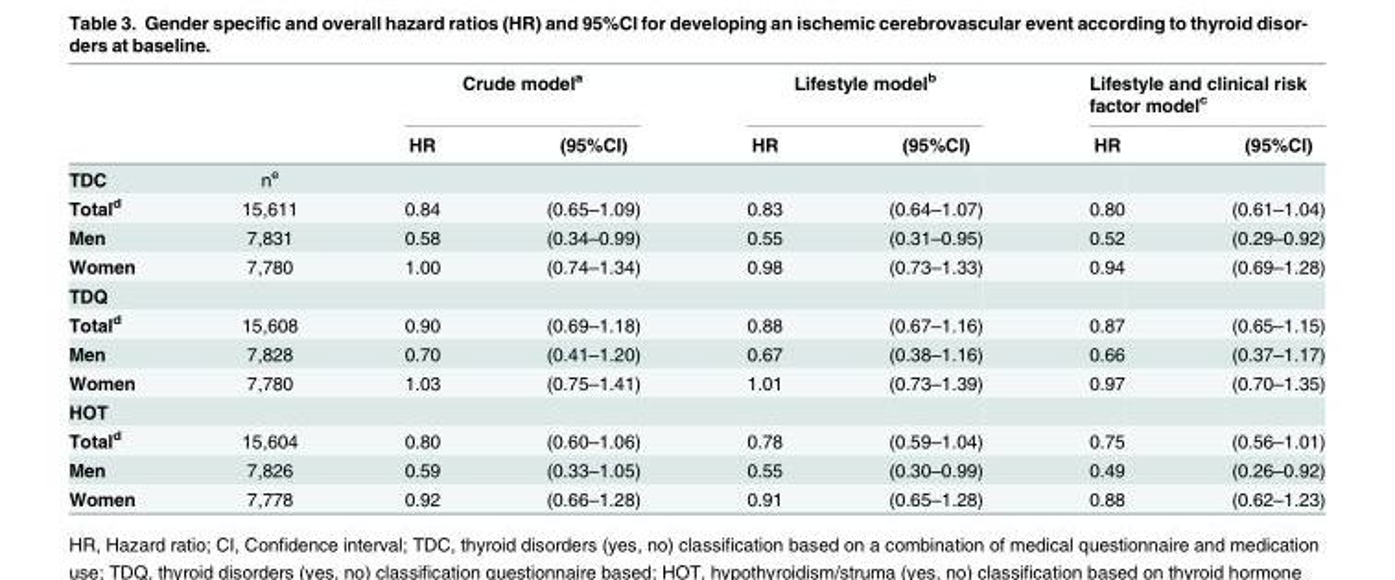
<table><thead><tr><td rowspan="2"></td><td rowspan="2"></td><td colspan="2">Crude model<sup>a</sup></td><td colspan="2">Lifestyle model<sup>b</sup></td><td colspan="2">Lifestyle and clinical risk factor model<sup>c</sup></td></tr><tr><td>HR</td><td>(95%CI)</td><td>HR</td><td>(95%CI)</td><td>HR</td><td>(95%CI)</td></tr></thead><tbody><tr><td>TDC</td><td>n<sup>e</sup></td><td></td><td></td><td></td><td></td><td></td><td></td></tr><tr><td>Total<sup>d</sup></td><td>15,611</td><td>0.84</td><td>(0.65–1.09)</td><td>0.83</td><td>(0.64–1.07)</td><td>0.80</td><td>(0.61–1.04)</td></tr><tr><td>Men</td><td>7,831</td><td>0.58</td><td>(0.34–0.99)</td><td>0.55</td><td>(0.31–0.95)</td><td>0.52</td><td>(0.29–0.92)</td></tr><tr><td>Women</td><td>7,780</td><td>1.00</td><td>(0.74–1.34)</td><td>0.98</td><td>(0.73–1.33)</td><td>0.94</td><td>(0.69–1.28)</td></tr><tr><td colspan="8">TDQ</td></tr><tr><td>Total<sup>d</sup></td><td>15,608</td><td>0.90</td><td>(0.69–1.18)</td><td>0.88</td><td>(0.67–1.16)</td><td>0.87</td><td>(0.65–1.15)</td></tr><tr><td>Men</td><td>7,828</td><td>0.70</td><td>(0.41–1.20)</td><td>0.67</td><td>(0.38–1.16)</td><td>0.66</td><td>(0.37–1.17)</td></tr><tr><td>Women</td><td>7,780</td><td>1.03</td><td>(0.75–1.41)</td><td>1.01</td><td>(0.73–1.39)</td><td>0.97</td><td>(0.70–1.35)</td></tr><tr><td colspan="8">HOT</td></tr><tr><td>Total<sup>d</sup></td><td>15,604</td><td>0.80</td><td>(0.60–1.06)</td><td>0.78</td><td>(0.59–1.04)</td><td>0.75</td><td>(0.56–1.01)</td></tr><tr><td>Men</td><td>7,826</td><td>0.59</td><td>(0.33–1.05)</td><td>0.55</td><td>(0.30–0.99)</td><td>0.49</td><td>(0.26–0.92)</td></tr><tr><td>Women</td><td>7,778</td><td>0.92</td><td>(0.66–1.28)</td><td>0.91</td><td>(0.65–1.28)</td><td>0.88</td><td>(0.62–1.23)</td></tr></tbody></table>